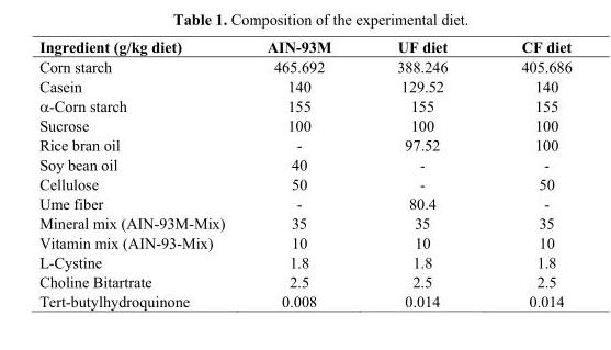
<table><thead><tr><td>Ingredient (g/kg diet)</td><td>AIN-93M</td><td>UF diet</td><td>CF diet</td></tr></thead><tbody><tr><td>Corn starch</td><td>465.692</td><td>388.246</td><td>405.686</td></tr><tr><td>Casein</td><td>140</td><td>129.52</td><td>140</td></tr><tr><td>α-Corn starch</td><td>155</td><td>155</td><td>155</td></tr><tr><td>Sucrose</td><td>100</td><td>100</td><td>100</td></tr><tr><td>Rice bran oil</td><td>-</td><td>97.52</td><td>100</td></tr><tr><td>Soy bean oil</td><td>40</td><td>-</td><td>-</td></tr><tr><td>Cellulose</td><td>50</td><td>-</td><td>50</td></tr><tr><td>Ume fiber</td><td>-</td><td>80.4</td><td>-</td></tr><tr><td>Mineral mix (AIN-93M-Mix)</td><td>35</td><td>35</td><td>35</td></tr><tr><td>Vitamin mix (AIN-93-Mix)</td><td>10</td><td>10</td><td>10</td></tr><tr><td>L-Cystine</td><td>1.8</td><td>1.8</td><td>1.8</td></tr><tr><td>Choline Bitartrate</td><td>2.5</td><td>2.5</td><td>2.5</td></tr><tr><td>Tert-butylhydroquinone</td><td>0.008</td><td>0.014</td><td>0.014</td></tr></tbody></table>